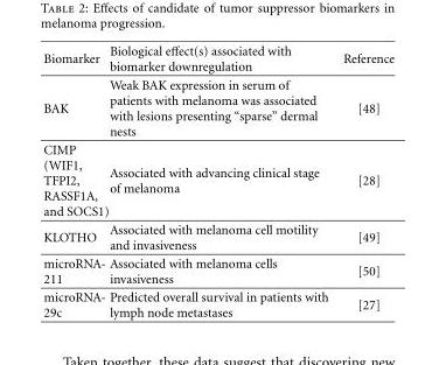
<table><thead><tr><td>Biomarker</td><td>Biological effect(s) associated with biomarker downregulation</td><td>Reference</td></tr></thead><tbody><tr><td>BAK</td><td>Weak BAK expression in serum of patients with melanoma was associated with lesions presenting “sparse” dermal nests</td><td>[48]</td></tr><tr><td>CIMP (WIF1, TFPI2, RASSF1A, and SOCS1)</td><td>Associated with advancing clinical stage of melanoma</td><td>[28]</td></tr><tr><td>KLOTHO</td><td>Associated with melanoma cell motility and invasiveness</td><td>[49]</td></tr><tr><td>microRNA- 211</td><td>Associated with melanoma cells invasiveness</td><td>[50]</td></tr><tr><td>microRNA- 29c</td><td>Predicted overall survival in patients with lymph node metastases</td><td>[27]</td></tr></tbody></table>